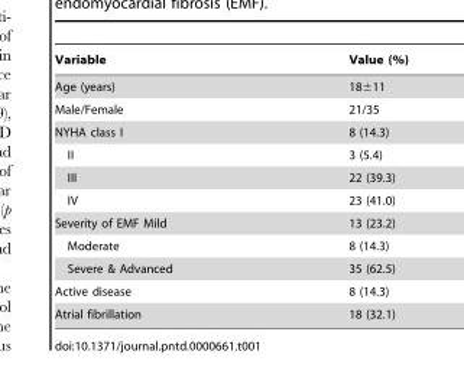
<table><thead><tr><td>Variable</td><td>Value (%)</td></tr></thead><tbody><tr><td>Age (years)</td><td>18±11</td></tr><tr><td>Male/Female</td><td>21/35</td></tr><tr><td>NYHA class I</td><td>8 (14.3)</td></tr><tr><td>II</td><td>3 (5.4)</td></tr><tr><td>III</td><td>22 (39.3)</td></tr><tr><td>IV</td><td>23 (41.0)</td></tr><tr><td>Severity of EMF Mild</td><td>13 (23.2)</td></tr><tr><td>Moderate</td><td>8 (14.3)</td></tr><tr><td>Severe &amp; Advanced</td><td>35 (62.5)</td></tr><tr><td>Active disease</td><td>8 (14.3)</td></tr><tr><td>Atrial fibrillation</td><td>18 (32.1)</td></tr></tbody></table>